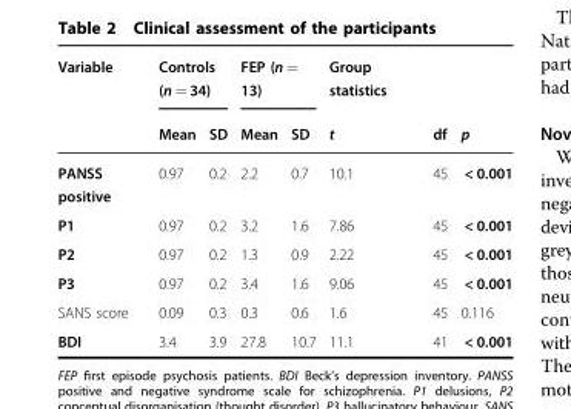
<table><thead><tr><td rowspan="2">Variable</td><td colspan="2">Controls (n = 34)</td><td colspan="2">FEP (n = 13)</td><td rowspan="2">Group statistics t</td><td rowspan="2">df</td><td rowspan="2">p</td></tr><tr><td>Mean</td><td>SD</td><td>Mean</td><td>SD</td></tr></thead><tbody><tr><td>PANSS positive</td><td>0.97</td><td>0.2</td><td>2.2</td><td>0.7</td><td>10.1</td><td>45</td><td>&lt; 0.001</td></tr><tr><td>P1</td><td>0.97</td><td>0.2</td><td>3.2</td><td>1.6</td><td>7.86</td><td>45</td><td>&lt; 0.001</td></tr><tr><td>P2</td><td>0.97</td><td>0.2</td><td>1.3</td><td>0.9</td><td>2.22</td><td>45</td><td>&lt; 0.001</td></tr><tr><td>P3</td><td>0.97</td><td>0.2</td><td>3.4</td><td>1.6</td><td>9.06</td><td>45</td><td>&lt; 0.001</td></tr><tr><td>SANS score</td><td>0.09</td><td>0.3</td><td>0.3</td><td>0.6</td><td>1.6</td><td>45</td><td>0.116</td></tr><tr><td>BDI</td><td>3.4</td><td>3.9</td><td>27.8</td><td>10.7</td><td>11.1</td><td>41</td><td>&lt; 0.001</td></tr></tbody></table>